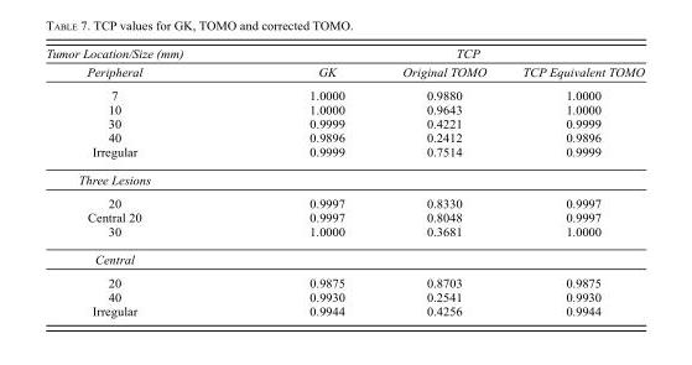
<table><thead><tr><td rowspan="2">Tumor Location/Size (mm) Peripheral</td><td colspan="3">TCP</td></tr><tr><td>GK</td><td>Original TOMO</td><td>TCP Equivalent TOMO</td></tr></thead><tbody><tr><td>7</td><td>1.0000</td><td>0.9880</td><td>1.0000</td></tr><tr><td>10</td><td>1.0000</td><td>0.9643</td><td>1.0000</td></tr><tr><td>30</td><td>0.9999</td><td>0.4221</td><td>0.9999</td></tr><tr><td>40</td><td>0.9896</td><td>0.2412</td><td>0.9896</td></tr><tr><td>Irregular</td><td>0.9999</td><td>0.7514</td><td>0.9999</td></tr><tr><td colspan="4">Three Lesions</td></tr><tr><td>20</td><td>0.9997</td><td>0.8330</td><td>0.9997</td></tr><tr><td>Central 20</td><td>0.9997</td><td>0.8048</td><td>0.9997</td></tr><tr><td>30</td><td>1.0000</td><td>0.3681</td><td>1.0000</td></tr><tr><td colspan="4">Central</td></tr><tr><td>20</td><td>0.9875</td><td>0.8703</td><td>0.9875</td></tr><tr><td>40</td><td>0.9930</td><td>0.2541</td><td>0.9930</td></tr><tr><td>Irregular</td><td>0.9944</td><td>0.4256</td><td>0.9944</td></tr></tbody></table>